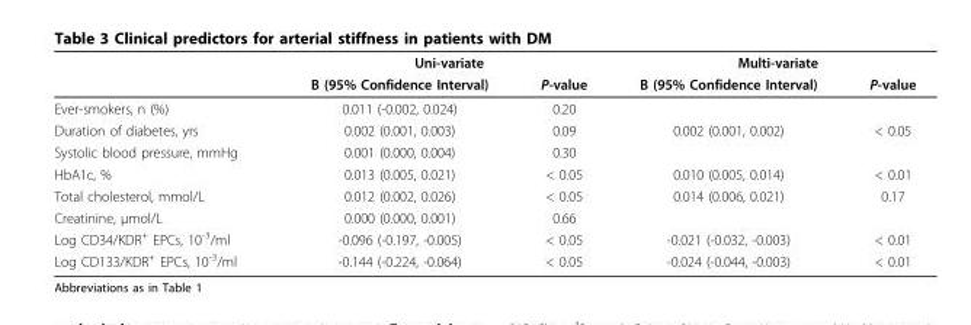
<table><thead><tr><td rowspan="2"></td><td colspan="2">Uni-variate</td><td colspan="2">Multi-variate</td></tr><tr><td>B (95% Confidence Interval)</td><td>P-value</td><td>B (95% Confidence Interval)</td><td>P-value</td></tr></thead><tbody><tr><td>Ever-smokers, n (%)</td><td>0.011 (-0.002, 0.024)</td><td>0.20</td><td></td><td></td></tr><tr><td>Duration of diabetes, yrs</td><td>0.002 (0.001, 0.003)</td><td>0.09</td><td>0.002 (0.001, 0.002)</td><td>&lt; 0.05</td></tr><tr><td>Systolic blood pressure, mmHg</td><td>0.001 (0.000, 0.004)</td><td>0.30</td><td></td><td></td></tr><tr><td>HbA1c, %</td><td>0.013 (0.005, 0.021)</td><td>&lt; 0.05</td><td>0.010 (0.005, 0.014)</td><td>&lt; 0.01</td></tr><tr><td>Total cholesterol, mmol/L</td><td>0.012 (0.002, 0.026)</td><td>&lt; 0.05</td><td>0.014 (0.006, 0.021)</td><td>0.17</td></tr><tr><td>Creatinine, μmol/L</td><td>0.000 (0.000, 0.001)</td><td>0.66</td><td></td><td></td></tr><tr><td>Log CD34/KDR<sup>+</sup> EPCs, 10<sup>-3</sup>/ml</td><td>-0.096 (-0.197, -0.005)</td><td>&lt; 0.05</td><td>-0.021 (-0.032, -0.003)</td><td>&lt; 0.01</td></tr><tr><td>Log CD133/KDR<sup>+</sup> EPCs, 10<sup>-3</sup>/ml</td><td>-0.144 (-0.224, -0.064)</td><td>&lt; 0.05</td><td>-0.024 (-0.044, -0.003)</td><td>&lt; 0.01</td></tr></tbody></table>